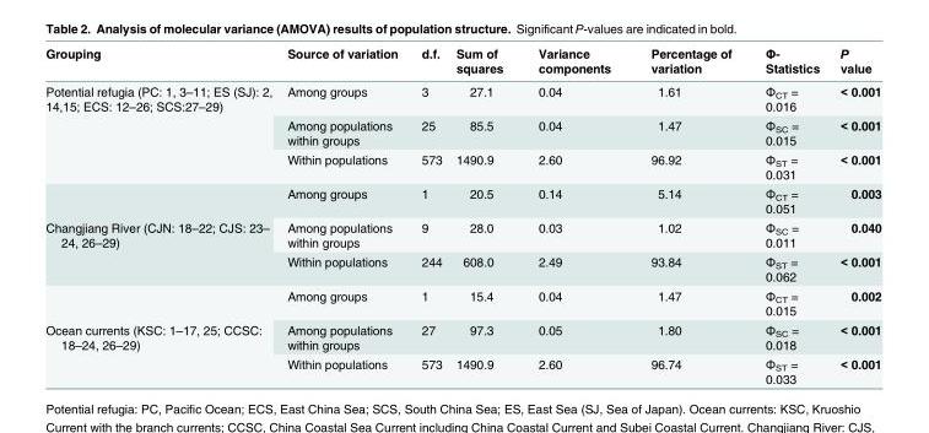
<table><thead><tr><td>Grouping</td><td>Source of variation</td><td>d.f.</td><td>Sum of squares</td><td>Variance components</td><td>Percentage of variation</td><td>Φ- Statistics</td><td>P value</td></tr></thead><tbody><tr><td rowspan="3">Potential refugia (PC: 1, 3–11; ES (SJ): 2, 14,15; ECS: 12–26; SCS:27–29)</td><td>Among groups</td><td>3</td><td>27.1</td><td>0.04</td><td>1.61</td><td>Φ<sub>CT</sub> = 0.016</td><td>&lt; 0.001</td></tr><tr><td>Among populations within groups</td><td>25</td><td>85.5</td><td>0.04</td><td>1.47</td><td>Φ<sub>SC</sub> = 0.015</td><td>&lt; 0.001</td></tr><tr><td>Within populations</td><td>573</td><td>1490.9</td><td>2.60</td><td>96.92</td><td>Φ<sub>ST</sub> = 0.031</td><td>&lt; 0.001</td></tr><tr><td rowspan="3">Changjiang River (CJN: 18–22; CJS: 23– 24, 26–29)</td><td>Among groups</td><td>1</td><td>20.5</td><td>0.14</td><td>5.14</td><td>Φ<sub>CT</sub> = 0.051</td><td>0.003</td></tr><tr><td>Among populations within groups</td><td>9</td><td>28.0</td><td>0.03</td><td>1.02</td><td>Φ<sub>SC</sub> = 0.011</td><td>0.040</td></tr><tr><td>Within populations</td><td>244</td><td>608.0</td><td>2.49</td><td>93.84</td><td>Φ<sub>ST</sub> = 0.062</td><td>&lt; 0.001</td></tr><tr><td rowspan="3">Ocean currents (KSC: 1–17, 25; CCSC: 18–24, 26–29)</td><td>Among groups</td><td>1</td><td>15.4</td><td>0.04</td><td>1.47</td><td>Φ<sub>CT</sub> = 0.015</td><td>0.002</td></tr><tr><td>Among populations within groups</td><td>27</td><td>97.3</td><td>0.05</td><td>1.80</td><td>Φ<sub>SC</sub> = 0.018</td><td>&lt; 0.001</td></tr><tr><td>Within populations</td><td>573</td><td>1490.9</td><td>2.60</td><td>96.74</td><td>Φ<sub>ST</sub> = 0.033</td><td>&lt; 0.001</td></tr></tbody></table>